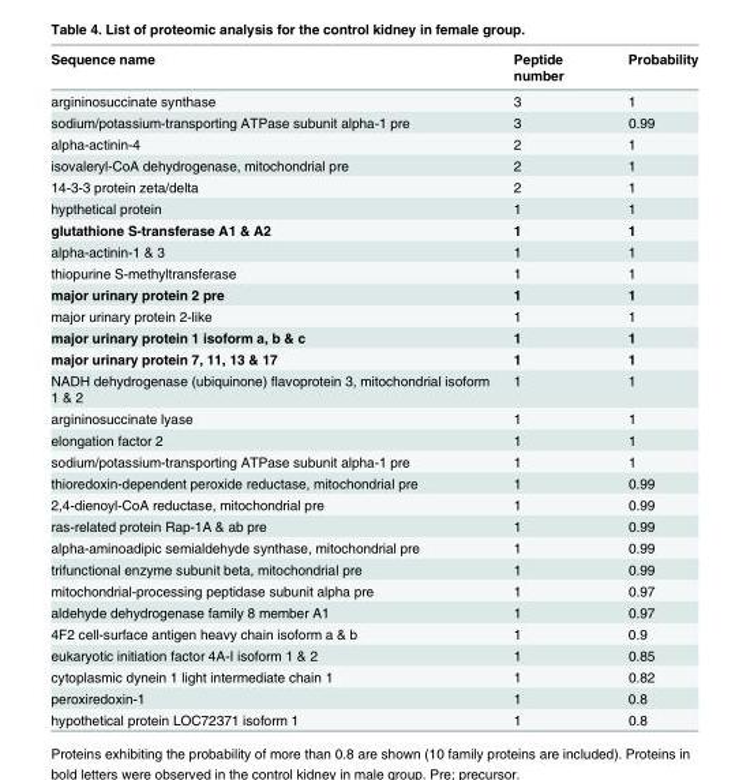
<table><thead><tr><td>Sequence name</td><td>Peptide number</td><td>Probability</td></tr></thead><tbody><tr><td>argininosuccinate synthase</td><td>3</td><td>1</td></tr><tr><td>sodium/potassium-transporting ATPase subunit alpha-1 pre</td><td>3</td><td>0.99</td></tr><tr><td>alpha-actinin-4</td><td>2</td><td>1</td></tr><tr><td>isovaleryl-CoA dehydrogenase, mitochondrial pre</td><td>2</td><td>1</td></tr><tr><td>14-3-3 protein zeta/delta</td><td>2</td><td>1</td></tr><tr><td>hypthetical protein</td><td>1</td><td>1</td></tr><tr><td>glutathione S-transferase A1 &amp; A2</td><td>1</td><td>1</td></tr><tr><td>alpha-actinin-1 &amp; 3</td><td>1</td><td>1</td></tr><tr><td>thiopurine S-methyltransferase</td><td>1</td><td>1</td></tr><tr><td>major urinary protein 2 pre</td><td>1</td><td>1</td></tr><tr><td>major urinary protein 2-like</td><td>1</td><td>1</td></tr><tr><td>major urinary protein 1 isoform a, b &amp; c</td><td>1</td><td>1</td></tr><tr><td>major urinary protein 7, 11, 13 &amp; 17</td><td>1</td><td>1</td></tr><tr><td>NADH dehydrogenase (ubiquinone) flavoprotein 3, mitochondrial isoform 1 &amp; 2</td><td>1</td><td>1</td></tr><tr><td>argininosuccinate lyase</td><td>1</td><td>1</td></tr><tr><td>elongation factor 2</td><td>1</td><td>1</td></tr><tr><td>sodium/potassium-transporting ATPase subunit alpha-1 pre</td><td>1</td><td>1</td></tr><tr><td>thioredoxin-dependent peroxide reductase, mitochondrial pre</td><td>1</td><td>0.99</td></tr><tr><td>2,4-dienoyl-CoA reductase, mitochondrial pre</td><td>1</td><td>0.99</td></tr><tr><td>ras-related protein Rap-1A &amp; ab pre</td><td>1</td><td>0.99</td></tr><tr><td>alpha-aminoadipic semialdehyde synthase, mitochondrial pre</td><td>1</td><td>0.99</td></tr><tr><td>trifunctional enzyme subunit beta, mitochondrial pre</td><td>1</td><td>0.99</td></tr><tr><td>mitochondrial-processing peptidase subunit alpha pre</td><td>1</td><td>0.97</td></tr><tr><td>aldehyde dehydrogenase family 8 member A1</td><td>1</td><td>0.97</td></tr><tr><td>4F2 cell-surface antigen heavy chain isoform a &amp; b</td><td>1</td><td>0.9</td></tr><tr><td>eukaryotic initiation factor 4A-I isoform 1 &amp; 2</td><td>1</td><td>0.85</td></tr><tr><td>cytoplasmic dynein 1 light intermediate chain 1</td><td>1</td><td>0.82</td></tr><tr><td>peroxiredoxin-1</td><td>1</td><td>0.8</td></tr><tr><td>hypothetical protein LOC72371 isoform 1</td><td>1</td><td>0.8</td></tr></tbody></table>